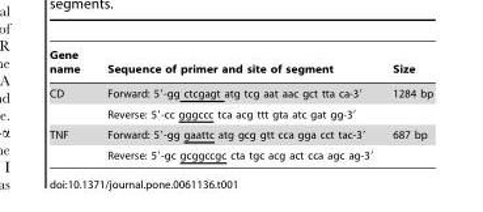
<table><thead><tr><td>Gene name</td><td>Sequence of primer and site of segment</td><td>Size</td></tr></thead><tbody><tr><td rowspan="2">CD</td><td>Forward: 5′-gg ctcgagt atg tcg aat aac gct tta ca-3′</td><td>1284 bp</td></tr><tr><td>Reverse: 5′-cc gggccc tca acg ttt gta atc gat gg-3′</td><td></td></tr><tr><td rowspan="2">TNF</td><td>Forward: 5′-gg gaattc atg gcg gtt cca gga cct tac-3′</td><td>687 bp</td></tr><tr><td>Reverse: 5′-gc gcggccgc cta tgc acg act cca agc ag-3′</td><td></td></tr></tbody></table>